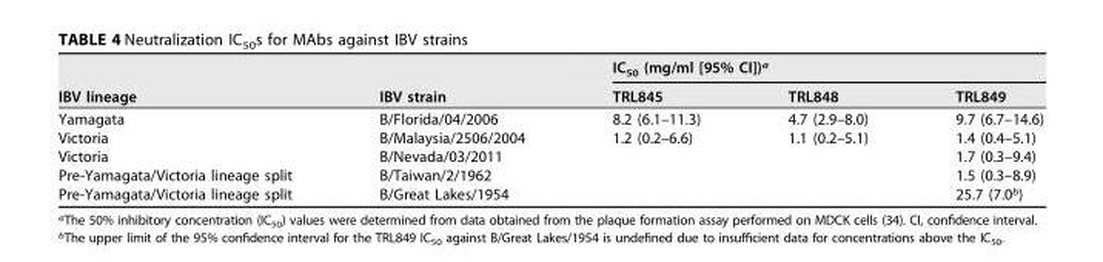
<table><thead><tr><td rowspan="2">IBV lineage</td><td rowspan="2">IBV strain</td><td colspan="3">IC<sub>50</sub> (mg/ml [95% CI])<sup>a</sup></td></tr><tr><td>TRL845</td><td>TRL848</td><td>TRL849</td></tr></thead><tbody><tr><td>Yamagata</td><td>B/Florida/04/2006</td><td>8.2 (6.1–11.3)</td><td>4.7 (2.9–8.0)</td><td>9.7 (6.7–14.6)</td></tr><tr><td>Victoria</td><td>B/Malaysia/2506/2004</td><td>1.2 (0.2–6.6)</td><td>1.1 (0.2–5.1)</td><td>1.4 (0.4–5.1)</td></tr><tr><td>Victoria</td><td>B/Nevada/03/2011</td><td></td><td></td><td>1.7 (0.3–9.4)</td></tr><tr><td>Pre-Yamagata/Victoria lineage split</td><td>B/Taiwan/2/1962</td><td></td><td></td><td>1.5 (0.3–8.9)</td></tr><tr><td>Pre-Yamagata/Victoria lineage split</td><td>B/Great Lakes/1954</td><td></td><td></td><td>25.7 (7.0<sup>b</sup>)</td></tr></tbody></table>